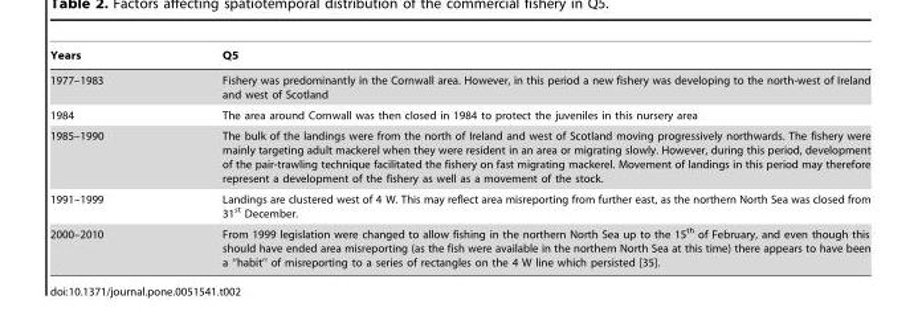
<table><thead><tr><td>Years</td><td>Q5</td></tr></thead><tbody><tr><td>1977–1983</td><td>Fishery was predominantly in the Cornwall area. However, in this period a new fishery was developing to the north-west of Ireland and west of Scotland</td></tr><tr><td>1984</td><td>The area around Cornwall was then closed in 1984 to protect the juveniles in this nursery area</td></tr><tr><td>1985–1990</td><td>The bulk of the landings were from the north of Ireland and west of Scotland moving progressively northwards. The fishery were mainly targeting adult mackerel when they were resident in an area or migrating slowly. However, during this period, development of the pair-trawling technique facilitated the fishery on fast migrating mackerel. Movement of landings in this period may therefore represent a development of the fishery as well as a movement of the stock.</td></tr><tr><td>1991–1999</td><td>Landings are clustered west of 4 W. This may reflect area misreporting from further east, as the northern North Sea was closed from 31<sup>st</sup> December.</td></tr><tr><td>2000–2010</td><td>From 1999 legislation were changed to allow fishing in the northern North Sea up to the 15th of February, and even though this should have ended area misreporting (as the fish were available in the northern North Sea at this time) there appears to have been a ‘‘habit’’ of misreporting to a series of rectangles on the 4 W line which persisted [35].</td></tr></tbody></table>